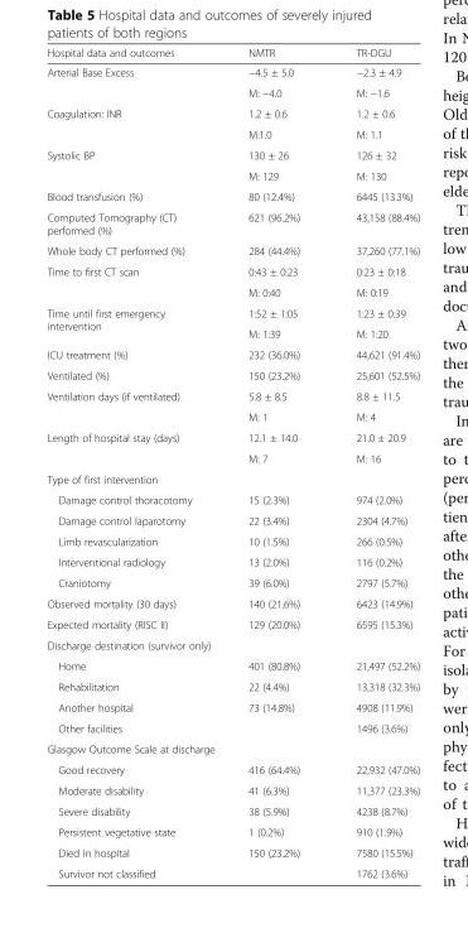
<table><thead><tr><td>Hospital data and outcomes</td><td>NMTR</td><td>TR-DGU</td></tr></thead><tbody><tr><td rowspan="2">Arterial Base Excess</td><td>−4.5 ± 5.0</td><td>−2.3 ± 4.9</td></tr><tr><td>M: −4.0</td><td>M: −1.6</td></tr><tr><td rowspan="2">Coagulation: INR</td><td>1.2 ± 0.6</td><td>1.2 ± 0.6</td></tr><tr><td>M:1.0</td><td>M: 1.1</td></tr><tr><td rowspan="2">Systolic BP</td><td>130 ± 26</td><td>126 ± 32</td></tr><tr><td>M: 129</td><td>M: 130</td></tr><tr><td>Blood transfusion (%)</td><td>80 (12.4%)</td><td>6445 (13.3%)</td></tr><tr><td>Computed Tomography (CT) performed (%)</td><td>621 (96.2%)</td><td>43,158 (88.4%)</td></tr><tr><td>Whole body CT performed (%)</td><td>284 (44.4%)</td><td>37,260 (77.1%)</td></tr><tr><td rowspan="2">Time to first CT scan</td><td>0:43 ± 0:23</td><td>0:23 ± 0:18</td></tr><tr><td>M: 0:40</td><td>M: 0:19</td></tr><tr><td rowspan="2">Time until first emergency intervention</td><td>1:52 ± 1:05</td><td>1:23 ± 0:39</td></tr><tr><td>M: 1:39</td><td>M: 1:20</td></tr><tr><td>ICU treatment (%)</td><td>232 (36.0%)</td><td>44,621 (91.4%)</td></tr><tr><td>Ventilated (%)</td><td>150 (23.2%)</td><td>25,601 (52.5%)</td></tr><tr><td rowspan="2">Ventilation days (if ventilated)</td><td>5.8 ± 8.5</td><td>8.8 ± 11.5</td></tr><tr><td>M: 1</td><td>M: 4</td></tr><tr><td rowspan="2">Length of hospital stay (days)</td><td>12.1 ± 14.0</td><td>21.0 ± 20.9</td></tr><tr><td>M: 7</td><td>M: 16</td></tr><tr><td colspan="3">Type of first intervention</td></tr><tr><td>Damage control thoracotomy</td><td>15 (2.3%)</td><td>974 (2.0%)</td></tr><tr><td>Damage control laparotomy</td><td>22 (3.4%)</td><td>2304 (4.7%)</td></tr><tr><td>Limb revascularization</td><td>10 (1.5%)</td><td>266 (0.5%)</td></tr><tr><td>Interventional radiology</td><td>13 (2.0%)</td><td>116 (0.2%)</td></tr><tr><td>Craniotomy</td><td>39 (6.0%)</td><td>2797 (5.7%)</td></tr><tr><td>Observed mortality (30 days)</td><td>140 (21.6%)</td><td>6423 (14.9%)</td></tr><tr><td>Expected mortality (RISC II)</td><td>129 (20.0%)</td><td>6595 (15.3%)</td></tr><tr><td colspan="3">Discharge destination (survivor only)</td></tr><tr><td>Home</td><td>401 (80.8%)</td><td>21,497 (52.2%)</td></tr><tr><td>Rehabilitation</td><td>22 (4.4%)</td><td>13,318 (32.3%)</td></tr><tr><td>Another hospital</td><td>73 (14.8%)</td><td>4908 (11.9%)</td></tr><tr><td>Other facilities</td><td></td><td>1496 (3.6%)</td></tr><tr><td colspan="3">Glasgow Outcome Scale at discharge</td></tr><tr><td>Good recovery</td><td>416 (64.4%)</td><td>22,932 (47.0%)</td></tr><tr><td>Moderate disability</td><td>41 (6.3%)</td><td>11,377 (23.3%)</td></tr><tr><td>Severe disability</td><td>38 (5.9%)</td><td>4238 (8.7%)</td></tr><tr><td>Persistent vegetative state</td><td>1 (0.2%)</td><td>910 (1.9%)</td></tr><tr><td>Died in hospital</td><td>150 (23.2%)</td><td>7580 (15.5%)</td></tr><tr><td>Survivor not classified</td><td></td><td>1762 (3.6%)</td></tr></tbody></table>